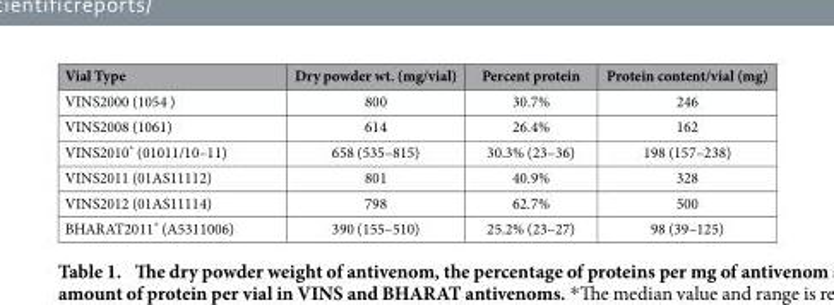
<table><thead><tr><td>Vial Type</td><td>Dry powder wt. (mg/vial)</td><td>Percent protein</td><td>Protein content/vial (mg)</td></tr></thead><tbody><tr><td>VINS2000 (1054 )</td><td>800</td><td>30.7%</td><td>246</td></tr><tr><td>VINS2008 (1061)</td><td>614</td><td>26.4%</td><td>162</td></tr><tr><td>VINS2010* (01011/10–11)</td><td>658 (535–815)</td><td>30.3% (23–36)</td><td>198 (157–238)</td></tr><tr><td>VINS2011 (01AS11112)</td><td>801</td><td>40.9%</td><td>328</td></tr><tr><td>VINS2012 (01AS11114)</td><td>798</td><td>62.7%</td><td>500</td></tr><tr><td>BHARAT2011* (A5311006)</td><td>390 (155–510)</td><td>25.2% (23–27)</td><td>98 (39–125)</td></tr></tbody></table>